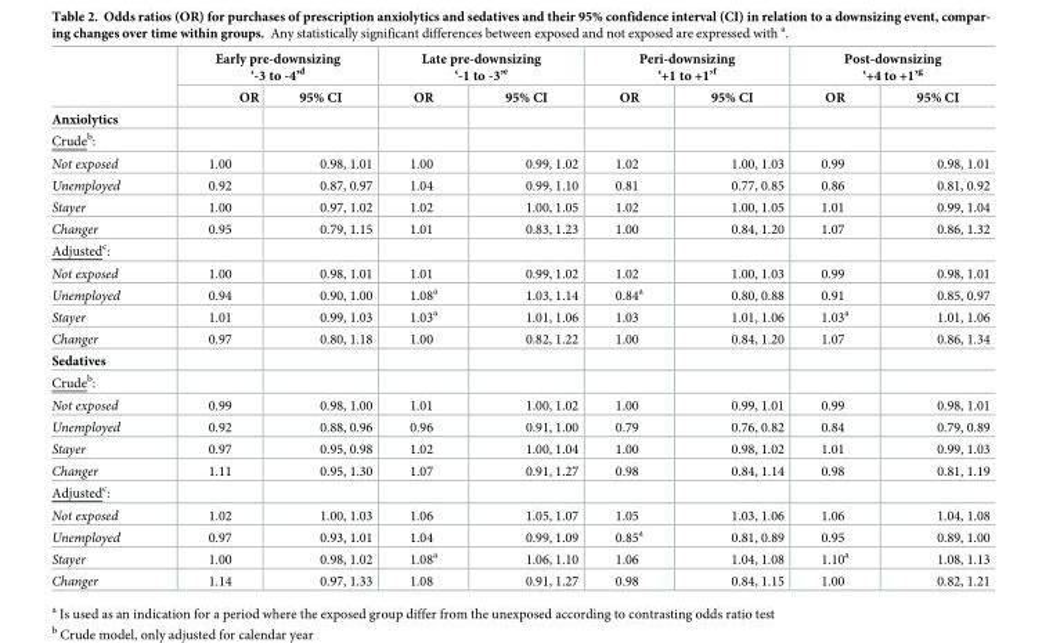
<table><thead><tr><td rowspan="2"></td><td colspan="2">Early pre-downsizing ‘-3 to -4’d</td><td colspan="2">Late pre-downsizing ‘-1 to -3’e</td><td colspan="2">Peri-downsizing ‘+1 to +1’f</td><td colspan="2">Post-downsizing ‘+4 to +1’g</td></tr><tr><td>OR</td><td>95% CI</td><td>OR</td><td>95% CI</td><td>OR</td><td>95% CI</td><td>OR</td><td>95% CI</td></tr></thead><tbody><tr><td colspan="9">Anxiolytics</td></tr><tr><td colspan="9">Crudeb:</td></tr><tr><td>Not exposed</td><td>1.00</td><td>0.98, 1.01</td><td>1.00</td><td>0.99, 1.02</td><td>1.02</td><td>1.00, 1.03</td><td>0.99</td><td>0.98, 1.01</td></tr><tr><td>Unemployed</td><td>0.92</td><td>0.87, 0.97</td><td>1.04</td><td>0.99, 1.10</td><td>0.81</td><td>0.77, 0.85</td><td>0.86</td><td>0.81, 0.92</td></tr><tr><td>Stayer</td><td>1.00</td><td>0.97, 1.02</td><td>1.02</td><td>1.00, 1.05</td><td>1.02</td><td>1.00, 1.05</td><td>1.01</td><td>0.99, 1.04</td></tr><tr><td>Changer</td><td>0.95</td><td>0.79, 1.15</td><td>1.01</td><td>0.83, 1.23</td><td>1.00</td><td>0.84, 1.20</td><td>1.07</td><td>0.86, 1.32</td></tr><tr><td colspan="9">Adjustedc:</td></tr><tr><td>Not exposed</td><td>1.00</td><td>0.98, 1.01</td><td>1.01</td><td>0.99, 1.02</td><td>1.02</td><td>1.00, 1.03</td><td>0.99</td><td>0.98, 1.01</td></tr><tr><td>Unemployed</td><td>0.94</td><td>0.90, 1.00</td><td>1.08a</td><td>1.03, 1.14</td><td>0.84a</td><td>0.80, 0.88</td><td>0.91</td><td>0.85, 0.97</td></tr><tr><td>Stayer</td><td>1.01</td><td>0.99, 1.03</td><td>1.03a</td><td>1.01, 1.06</td><td>1.03</td><td>1.01, 1.06</td><td>1.03a</td><td>1.01, 1.06</td></tr><tr><td>Changer</td><td>0.97</td><td>0.80, 1.18</td><td>1.00</td><td>0.82, 1.22</td><td>1.00</td><td>0.84, 1.20</td><td>1.07</td><td>0.86, 1.34</td></tr><tr><td colspan="9">Sedatives</td></tr><tr><td colspan="9">Crudeb:</td></tr><tr><td>Not exposed</td><td>0.99</td><td>0.98, 1.00</td><td>1.01</td><td>1.00, 1.02</td><td>1.00</td><td>0.99, 1.01</td><td>0.99</td><td>0.98, 1.01</td></tr><tr><td>Unemployed</td><td>0.92</td><td>0.88, 0.96</td><td>0.96</td><td>0.91, 1.00</td><td>0.79</td><td>0.76, 0.82</td><td>0.84</td><td>0.79, 0.89</td></tr><tr><td>Stayer</td><td>0.97</td><td>0.95, 0.98</td><td>1.02</td><td>1.00, 1.04</td><td>1.00</td><td>0.98, 1.02</td><td>1.01</td><td>0.99, 1.03</td></tr><tr><td>Changer</td><td>1.11</td><td>0.95, 1.30</td><td>1.07</td><td>0.91, 1.27</td><td>0.98</td><td>0.84, 1.14</td><td>0.98</td><td>0.81, 1.19</td></tr><tr><td colspan="9">Adjustedc:</td></tr><tr><td>Not exposed</td><td>1.02</td><td>1.00, 1.03</td><td>1.06</td><td>1.05, 1.07</td><td>1.05</td><td>1.03, 1.06</td><td>1.06</td><td>1.04, 1.08</td></tr><tr><td>Unemployed</td><td>0.97</td><td>0.93, 1.01</td><td>1.04</td><td>0.99, 1.09</td><td>0.85a</td><td>0.81, 0.89</td><td>0.95</td><td>0.89, 1.00</td></tr><tr><td>Stayer</td><td>1.00</td><td>0.98, 1.02</td><td>1.08a</td><td>1.06, 1.10</td><td>1.06</td><td>1.04, 1.08</td><td>1.10a</td><td>1.08, 1.13</td></tr><tr><td>Changer</td><td>1.14</td><td>0.97, 1.33</td><td>1.08</td><td>0.91, 1.27</td><td>0.98</td><td>0.84, 1.15</td><td>1.00</td><td>0.82, 1.21</td></tr></tbody></table>